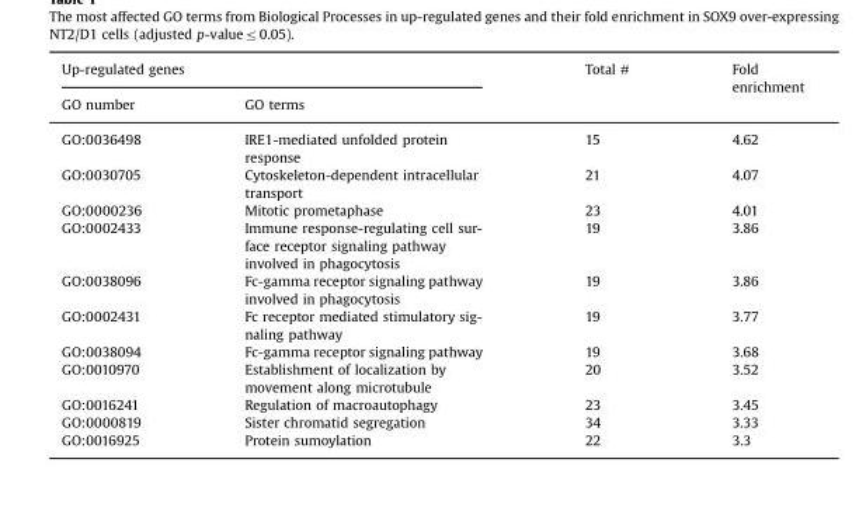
<table><thead><tr><td colspan="2">Up-regulated genes</td><td rowspan="2">Total #</td><td rowspan="2">Fold enrichment</td></tr><tr><td>GO number</td><td>GO terms</td></tr></thead><tbody><tr><td>GO:0036498</td><td>IRE1-mediated unfolded protein response</td><td>15</td><td>4.62</td></tr><tr><td>GO:0030705</td><td>Cytoskeleton-dependent intracellular transport</td><td>21</td><td>4.07</td></tr><tr><td>GO:0000236</td><td>Mitotic prometaphase</td><td>23</td><td>4.01</td></tr><tr><td>GO:0002433</td><td>Immune response-regulating cell sur- face receptor signaling pathway involved in phagocytosis</td><td>19</td><td>3.86</td></tr><tr><td>GO:0038096</td><td>Fc-gamma receptor signaling pathway involved in phagocytosis</td><td>19</td><td>3.86</td></tr><tr><td>GO:0002431</td><td>Fc receptor mediated stimulatory sig- naling pathway</td><td>19</td><td>3.77</td></tr><tr><td>GO:0038094</td><td>Fc-gamma receptor signaling pathway</td><td>19</td><td>3.68</td></tr><tr><td>GO:0010970</td><td>Establishment of localization by movement along microtubule</td><td>20</td><td>3.52</td></tr><tr><td>GO:0016241</td><td>Regulation of macroautophagy</td><td>23</td><td>3.45</td></tr><tr><td>GO:0000819</td><td>Sister chromatid segregation</td><td>34</td><td>3.33</td></tr><tr><td>GO:0016925</td><td>Protein sumoylation</td><td>22</td><td>3.3</td></tr></tbody></table>